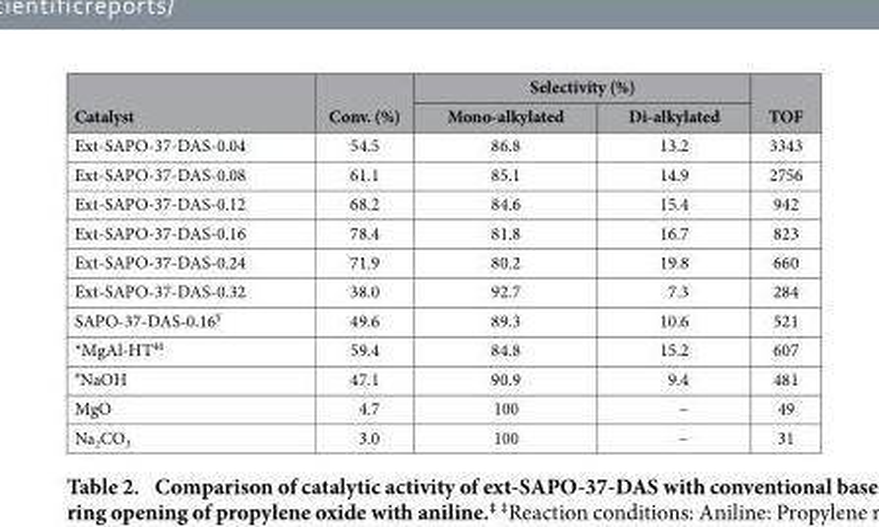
<table><thead><tr><td rowspan="2">Catalyst</td><td rowspan="2">Conv. (%)</td><td colspan="2">Selectivity (%)</td><td rowspan="2">TOF</td></tr><tr><td>Mono-alkylated</td><td>Di-alkylated</td></tr></thead><tbody><tr><td>Ext-SAPO-37-DAS-0.04</td><td>54.5</td><td>86.8</td><td>13.2</td><td>3343</td></tr><tr><td>Ext-SAPO-37-DAS-0.08</td><td>61.1</td><td>85.1</td><td>14.9</td><td>2756</td></tr><tr><td>Ext-SAPO-37-DAS-0.12</td><td>68.2</td><td>84.6</td><td>15.4</td><td>942</td></tr><tr><td>Ext-SAPO-37-DAS-0.16</td><td>78.4</td><td>81.8</td><td>16.7</td><td>823</td></tr><tr><td>Ext-SAPO-37-DAS-0.24</td><td>71.9</td><td>80.2</td><td>19.8</td><td>660</td></tr><tr><td>Ext-SAPO-37-DAS-0.32</td><td>38.0</td><td>92.7</td><td>7.3</td><td>284</td></tr><tr><td>SAPO-37-DAS-0.16<sup>¥</sup></td><td>49.6</td><td>89.3</td><td>10.6</td><td>521</td></tr><tr><td>*MgAl-HT<sup>40</sup></td><td>59.4</td><td>84.8</td><td>15.2</td><td>607</td></tr><tr><td><sup>#</sup>NaOH</td><td>47.1</td><td>90.9</td><td>9.4</td><td>481</td></tr><tr><td>MgO</td><td>4.7</td><td>100</td><td>–</td><td>49</td></tr><tr><td>Na<sub>2</sub>CO<sub>3</sub></td><td>3.0</td><td>100</td><td>–</td><td>31</td></tr></tbody></table>